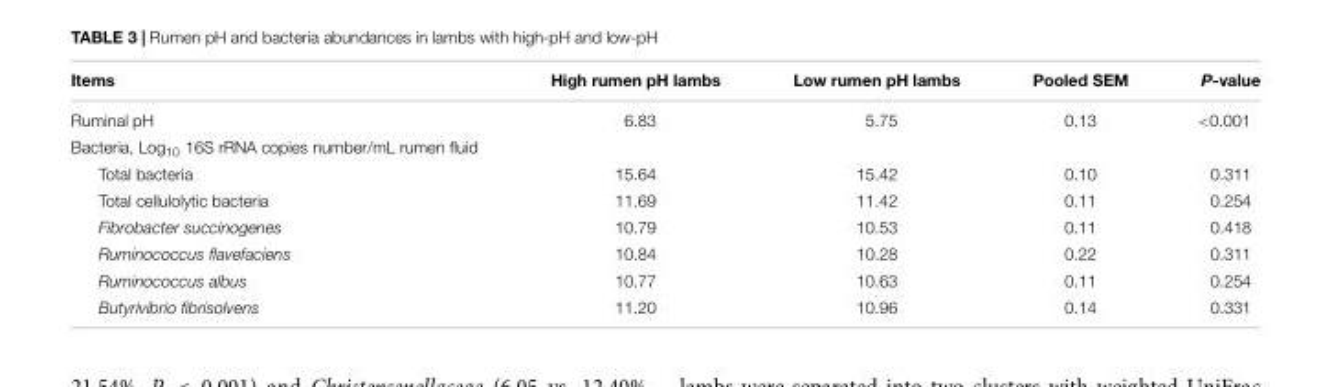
<table><thead><tr><td>Items</td><td>High rumen pH lambs</td><td>Low rumen pH lambs</td><td>Pooled SEM</td><td>P-value</td></tr></thead><tbody><tr><td>Ruminal pH</td><td>6.83</td><td>5.75</td><td>0.13</td><td>&lt;0.001</td></tr><tr><td colspan="5">Bacteria, Log<sub>10</sub> 16S rRNA copies number/mL rumen fluid</td></tr><tr><td>Total bacteria</td><td>15.64</td><td>15.42</td><td>0.10</td><td>0.311</td></tr><tr><td>Total cellulolytic bacteria</td><td>11.69</td><td>11.42</td><td>0.11</td><td>0.254</td></tr><tr><td>Fibrobacter succinogenes</td><td>10.79</td><td>10.53</td><td>0.11</td><td>0.418</td></tr><tr><td>Ruminococcus flavefaciens</td><td>10.84</td><td>10.28</td><td>0.22</td><td>0.311</td></tr><tr><td>Ruminococcus albus</td><td>10.77</td><td>10.63</td><td>0.11</td><td>0.254</td></tr><tr><td>Butyrivibrio fibrisolvens</td><td>11.20</td><td>10.96</td><td>0.14</td><td>0.331</td></tr></tbody></table>